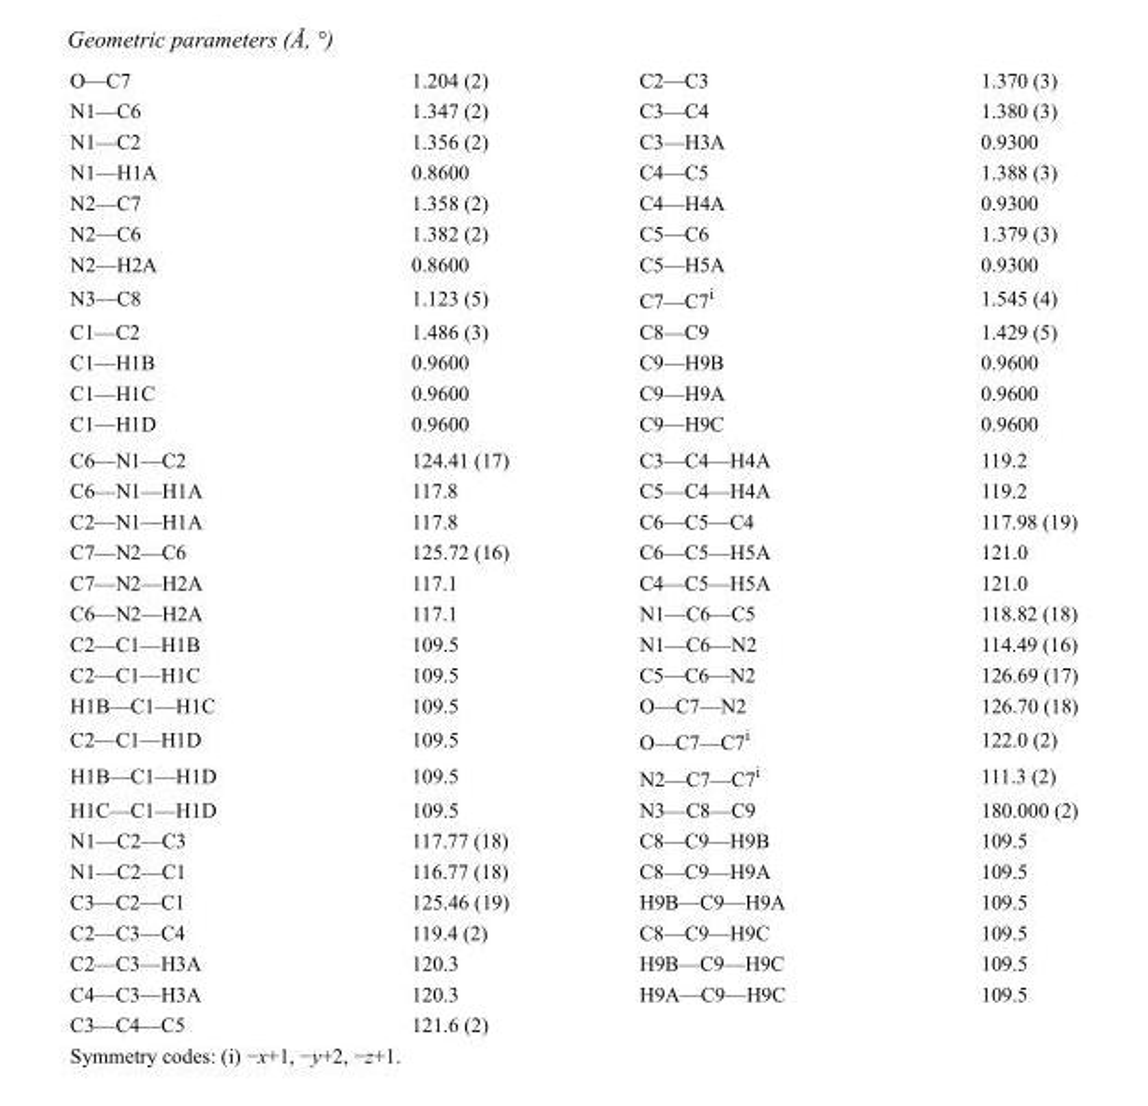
<table><tbody><tr><td>O—C7</td><td>1.204 (2)</td><td>C2—C3</td><td>1.370 (3)</td></tr><tr><td>N1—C6</td><td>1.347 (2)</td><td>C3—C4</td><td>1.380 (3)</td></tr><tr><td>N1—C2</td><td>1.356 (2)</td><td>C3—H3A</td><td>0.9300</td></tr><tr><td>N1—H1A</td><td>0.8600</td><td>C4—C5</td><td>1.388 (3)</td></tr><tr><td>N2—C7</td><td>1.358 (2)</td><td>C4—H4A</td><td>0.9300</td></tr><tr><td>N2—C6</td><td>1.382 (2)</td><td>C5—C6</td><td>1.379 (3)</td></tr><tr><td>N2—H2A</td><td>0.8600</td><td>C5—H5A</td><td>0.9300</td></tr><tr><td>N3—C8</td><td>1.123 (5)</td><td>C7—C7<sup>i</sup></td><td>1.545 (4)</td></tr><tr><td>C1—C2</td><td>1.486 (3)</td><td>C8—C9</td><td>1.429 (5)</td></tr><tr><td>C1—H1B</td><td>0.9600</td><td>C9—H9B</td><td>0.9600</td></tr><tr><td>C1—H1C</td><td>0.9600</td><td>C9—H9A</td><td>0.9600</td></tr><tr><td>C1—H1D</td><td>0.9600</td><td>C9—H9C</td><td>0.9600</td></tr><tr><td>C6—N1—C2</td><td>124.41 (17)</td><td>C3—C4—H4A</td><td>119.2</td></tr><tr><td>C6—N1—H1A</td><td>117.8</td><td>C5—C4—H4A</td><td>119.2</td></tr><tr><td>C2—N1—H1A</td><td>117.8</td><td>C6—C5—C4</td><td>117.98 (19)</td></tr><tr><td>C7—N2—C6</td><td>125.72 (16)</td><td>C6—C5—H5A</td><td>121.0</td></tr><tr><td>C7—N2—H2A</td><td>117.1</td><td>C4—C5—H5A</td><td>121.0</td></tr><tr><td>C6—N2—H2A</td><td>117.1</td><td>N1—C6—C5</td><td>118.82 (18)</td></tr><tr><td>C2—C1—H1B</td><td>109.5</td><td>N1—C6—N2</td><td>114.49 (16)</td></tr><tr><td>C2—C1—H1C</td><td>109.5</td><td>C5—C6—N2</td><td>126.69 (17)</td></tr><tr><td>H1B—C1—H1C</td><td>109.5</td><td>O—C7—N2</td><td>126.70 (18)</td></tr><tr><td>C2—C1—H1D</td><td>109.5</td><td>O—C7—C7<sup>i</sup></td><td>122.0 (2)</td></tr><tr><td>H1B—C1—H1D</td><td>109.5</td><td>N2—C7—C7<sup>i</sup></td><td>111.3 (2)</td></tr><tr><td>H1C—C1—H1D</td><td>109.5</td><td>N3—C8—C9</td><td>180.000 (2)</td></tr><tr><td>N1—C2—C3</td><td>117.77 (18)</td><td>C8—C9—H9B</td><td>109.5</td></tr><tr><td>N1—C2—C1</td><td>116.77 (18)</td><td>C8—C9—H9A</td><td>109.5</td></tr><tr><td>C3—C2—C1</td><td>125.46 (19)</td><td>H9B—C9—H9A</td><td>109.5</td></tr><tr><td>C2—C3—C4</td><td>119.4 (2)</td><td>C8—C9—H9C</td><td>109.5</td></tr><tr><td>C2—C3—H3A</td><td>120.3</td><td>H9B—C9—H9C</td><td>109.5</td></tr><tr><td>C4—C3—H3A</td><td>120.3</td><td>H9A—C9—H9C</td><td>109.5</td></tr><tr><td>C3—C4—C5</td><td>121.6 (2)</td><td></td><td></td></tr></tbody></table>